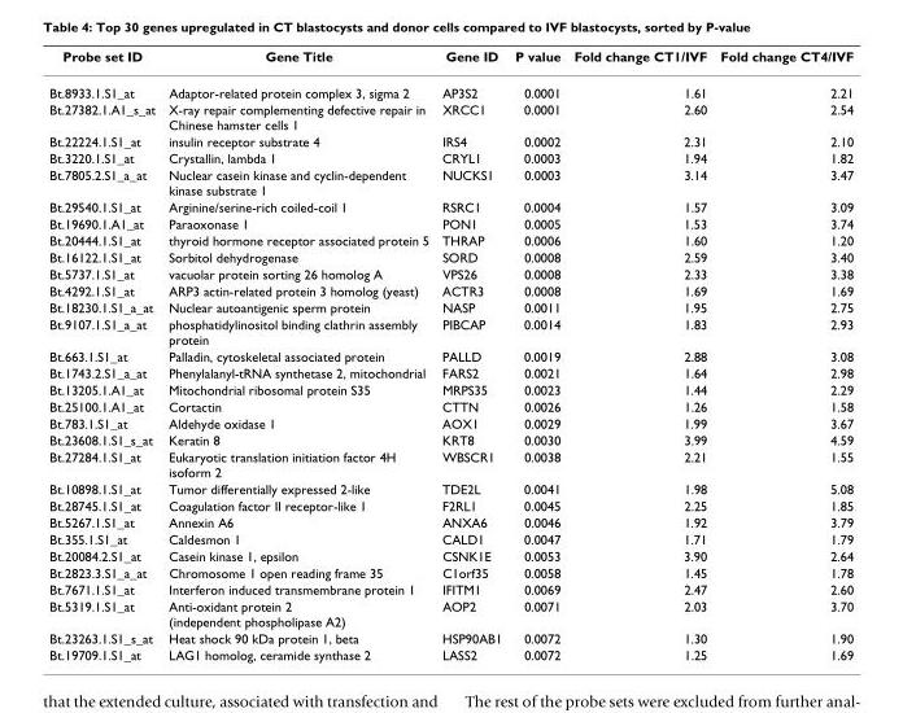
<table><thead><tr><td>Probe set ID</td><td>Gene Title</td><td>Gene ID</td><td>P value</td><td>Fold change CT1/IVF</td><td>Fold change CT4/IVF</td></tr></thead><tbody><tr><td>Bt.8933.1.S1_at</td><td>Adaptor-related protein complex 3, sigma 2</td><td>AP3S2</td><td>0.0001</td><td>1.61</td><td>2.21</td></tr><tr><td>Bt.27382.1.A1_s_at</td><td>X-ray repair complementing defective repair in Chinese hamster cells 1</td><td>XRCC1</td><td>0.0001</td><td>2.60</td><td>2.54</td></tr><tr><td>Bt.22224.1.S1_at</td><td>insulin receptor substrate 4</td><td>IRS4</td><td>0.0002</td><td>2.31</td><td>2.10</td></tr><tr><td>Bt.3220.1.S1_at</td><td>Crystallin, lambda 1</td><td>CRYL1</td><td>0.0003</td><td>1.94</td><td>1.82</td></tr><tr><td>Bt.7805.2.S1_a_at</td><td>Nuclear casein kinase and cyclin-dependent kinase substrate 1</td><td>NUCKS1</td><td>0.0003</td><td>3.14</td><td>3.47</td></tr><tr><td>Bt.29540.1.S1_at</td><td>Arginine/serine-rich coiled-coil 1</td><td>RSRC1</td><td>0.0004</td><td>1.57</td><td>3.09</td></tr><tr><td>Bt.19690.1.A1_at</td><td>Paraoxonase 1</td><td>PON1</td><td>0.0005</td><td>1.53</td><td>3.74</td></tr><tr><td>Bt.20444.1.S1_at</td><td>thyroid hormone receptor associated protein 5</td><td>THRAP</td><td>0.0006</td><td>1.60</td><td>1.20</td></tr><tr><td>Bt.16122.1.S1_at</td><td>Sorbitol dehydrogenase</td><td>SORD</td><td>0.0008</td><td>2.59</td><td>3.40</td></tr><tr><td>Bt.5737.1.S1_at</td><td>vacuolar protein sorting 26 homolog A</td><td>VPS26</td><td>0.0008</td><td>2.33</td><td>3.38</td></tr><tr><td>Bt.4292.1.S1_at</td><td>ARP3 actin-related protein 3 homolog (yeast)</td><td>ACTR3</td><td>0.0008</td><td>1.69</td><td>1.69</td></tr><tr><td>Bt.18230.1.S1_a_at</td><td>Nuclear autoantigenic sperm protein</td><td>NASP</td><td>0.0011</td><td>1.95</td><td>2.75</td></tr><tr><td>Bt.9107.1.S1_a_at</td><td>phosphatidylinositol binding clathrin assembly protein</td><td>PIBCAP</td><td>0.0014</td><td>1.83</td><td>2.93</td></tr><tr><td>Bt.663.1.S1_at</td><td>Palladin, cytoskeletal associated protein</td><td>PALLD</td><td>0.0019</td><td>2.88</td><td>3.08</td></tr><tr><td>Bt.1743.2.S1_a_at</td><td>Phenylalanyl-tRNA synthetase 2, mitochondrial</td><td>FARS2</td><td>0.0021</td><td>1.64</td><td>2.98</td></tr><tr><td>Bt.13205.1.A1_at</td><td>Mitochondrial ribosomal protein S35</td><td>MRPS35</td><td>0.0023</td><td>1.44</td><td>2.29</td></tr><tr><td>Bt.25100.1.A1_at</td><td>Cortactin</td><td>CTTN</td><td>0.0026</td><td>1.26</td><td>1.58</td></tr><tr><td>Bt.783.1.S1_at</td><td>Aldehyde oxidase 1</td><td>AOX1</td><td>0.0029</td><td>1.99</td><td>3.67</td></tr><tr><td>Bt.23608.1.S1_s_at</td><td>Keratin 8</td><td>KRT8</td><td>0.0030</td><td>3.99</td><td>4.59</td></tr><tr><td>Bt.27284.1.S1_at</td><td>Eukaryotic translation initiation factor 4H isoform 2</td><td>WBSCR1</td><td>0.0038</td><td>2.21</td><td>1.55</td></tr><tr><td>Bt.10898.1.S1_at</td><td>Tumor differentially expressed 2-like</td><td>TDE2L</td><td>0.0041</td><td>1.98</td><td>5.08</td></tr><tr><td>Bt.28745.1.S1_at</td><td>Coagulation factor II receptor-like 1</td><td>F2RL1</td><td>0.0045</td><td>2.25</td><td>1.85</td></tr><tr><td>Bt.5267.1.S1_at</td><td>Annexin A6</td><td>ANXA6</td><td>0.0046</td><td>1.92</td><td>3.79</td></tr><tr><td>Bt.355.1.S1_at</td><td>Caldesmon 1</td><td>CALD1</td><td>0.0047</td><td>1.71</td><td>1.79</td></tr><tr><td>Bt.20084.2.S1_at</td><td>Casein kinase 1, epsilon</td><td>CSNK1E</td><td>0.0053</td><td>3.90</td><td>2.64</td></tr><tr><td>Bt.2823.3.S1_a_at</td><td>Chromosome 1 open reading frame 35</td><td>C1orf35</td><td>0.0058</td><td>1.45</td><td>1.78</td></tr><tr><td>Bt.7671.1.S1_at</td><td>Interferon induced transmembrane protein 1</td><td>IFITM1</td><td>0.0069</td><td>2.47</td><td>2.60</td></tr><tr><td>Bt.5319.1.S1_at</td><td>Anti-oxidant protein 2 (independent phospholipase A2)</td><td>AOP2</td><td>0.0071</td><td>2.03</td><td>3.70</td></tr><tr><td>Bt.23263.1.S1_s_at</td><td>Heat shock 90 kDa protein 1, beta</td><td>HSP90AB1</td><td>0.0072</td><td>1.30</td><td>1.90</td></tr><tr><td>Bt.19709.1.S1_at</td><td>LAG1 homolog, ceramide synthase 2</td><td>LASS2</td><td>0.0072</td><td>1.25</td><td>1.69</td></tr></tbody></table>